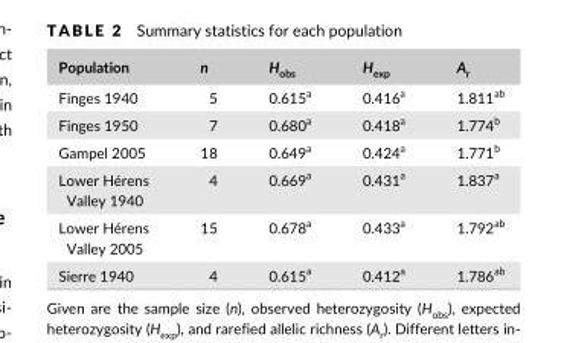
<table><thead><tr><td>Population</td><td>n</td><td>H<sub>obs</sub></td><td>H<sub>exp</sub></td><td>A<sub>r</sub></td></tr></thead><tbody><tr><td>Finges 1940</td><td>5</td><td>0.615<sup>a</sup></td><td>0.416<sup>a</sup></td><td>1.811<sup>ab</sup></td></tr><tr><td>Finges 1950</td><td>7</td><td>0.680<sup>a</sup></td><td>0.418<sup>a</sup></td><td>1.774<sup>b</sup></td></tr><tr><td>Gampel 2005</td><td>18</td><td>0.649<sup>a</sup></td><td>0.424<sup>a</sup></td><td>1.771<sup>b</sup></td></tr><tr><td>Lower Hérens Valley 1940</td><td>4</td><td>0.669<sup>a</sup></td><td>0.431<sup>a</sup></td><td>1.837<sup>a</sup></td></tr><tr><td>Lower Hérens Valley 2005</td><td>15</td><td>0.678<sup>a</sup></td><td>0.433<sup>a</sup></td><td>1.792<sup>ab</sup></td></tr><tr><td>Sierre 1940</td><td>4</td><td>0.615<sup>a</sup></td><td>0.412<sup>a</sup></td><td>1.786<sup>ab</sup></td></tr></tbody></table>